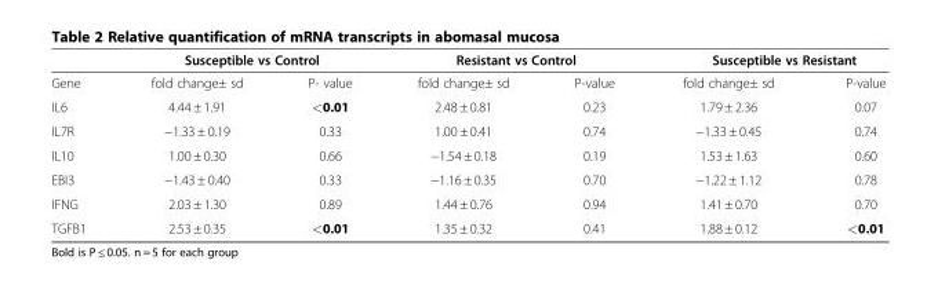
<table><thead><tr><td rowspan="2">Gene</td><td colspan="2">Susceptible vs Control</td><td colspan="2">Resistant vs Control</td><td colspan="2">Susceptible vs Resistant</td></tr><tr><td>fold change± sd</td><td>P- value</td><td>fold change± sd</td><td>P-value</td><td>fold change± sd</td><td>P-value</td></tr></thead><tbody><tr><td>IL6</td><td>4.44 ± 1.91</td><td>&lt;0.01</td><td>2.48 ± 0.81</td><td>0.23</td><td>1.79 ± 2.36</td><td>0.07</td></tr><tr><td>IL7R</td><td>−1.33 ± 0.19</td><td>0.33</td><td>1.00 ± 0.41</td><td>0.74</td><td>−1.33 ± 0.45</td><td>0.74</td></tr><tr><td>IL10</td><td>1.00 ± 0.30</td><td>0.66</td><td>−1.54 ± 0.18</td><td>0.19</td><td>1.53 ± 1.63</td><td>0.60</td></tr><tr><td>EBI3</td><td>−1.43 ± 0.40</td><td>0.33</td><td>−1.16 ± 0.35</td><td>0.70</td><td>−1.22 ± 1.12</td><td>0.78</td></tr><tr><td>IFNG</td><td>2.03 ± 1.30</td><td>0.89</td><td>1.44 ± 0.76</td><td>0.94</td><td>1.41 ± 0.70</td><td>0.70</td></tr><tr><td>TGFB1</td><td>2.53 ± 0.35</td><td>&lt;0.01</td><td>1.35 ± 0.32</td><td>0.41</td><td>1.88 ± 0.12</td><td>&lt;0.01</td></tr></tbody></table>